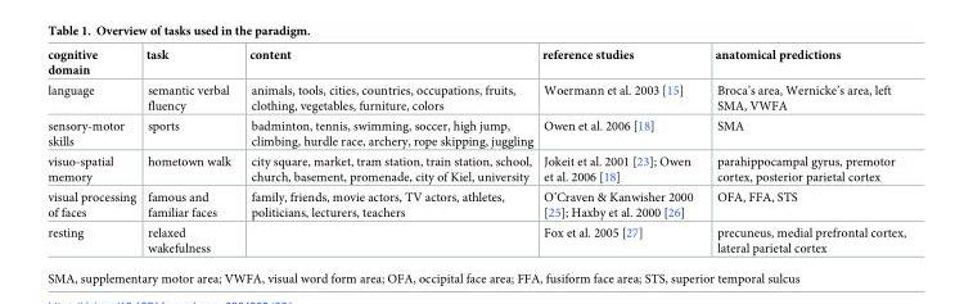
<table><thead><tr><td>cognitive domain</td><td>task</td><td>content</td><td>reference studies</td><td>anatomical predictions</td></tr></thead><tbody><tr><td>language</td><td>semantic verbal fluency</td><td>animals, tools, cities, countries, occupations, fruits, clothing, vegetables, furniture, colors</td><td>Woermann et al. 2003 [15]</td><td>Broca’s area, Wernicke’s area, left SMA, VWFA</td></tr><tr><td>sensory-motor skills</td><td>sports</td><td>badminton, tennis, swimming, soccer, high jump, climbing, hurdle race, archery, rope skipping, juggling</td><td>Owen et al. 2006 [18]</td><td>SMA</td></tr><tr><td>visuo-spatial memory</td><td>hometown walk</td><td>city square, market, tram station, train station, school, church, basement, promenade, city of Kiel, university</td><td>Jokeit et al. 2001 [23]; Owen et al. 2006 [18]</td><td>parahippocampal gyrus, premotor cortex, posterior parietal cortex</td></tr><tr><td>visual processing of faces</td><td>famous and familiar faces</td><td>family, friends, movie actors, TV actors, athletes, politicians, lecturers, teachers</td><td>O’Craven &amp; Kanwisher 2000 [25]; Haxby et al. 2000 [26]</td><td>OFA, FFA, STS</td></tr><tr><td>resting</td><td>relaxed wakefulness</td><td></td><td>Fox et al. 2005 [27]</td><td>precuneus, medial prefrontal cortex, lateral parietal cortex</td></tr></tbody></table>